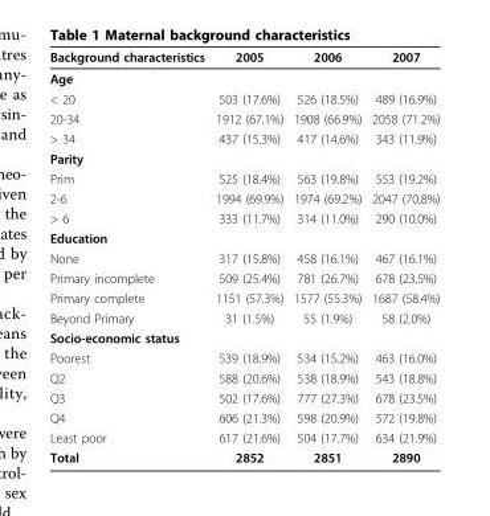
<table><thead><tr><td>Background characteristics</td><td>2005</td><td>2006</td><td>2007</td></tr></thead><tbody><tr><td colspan="4">Age</td></tr><tr><td>&lt; 20</td><td>503 (17.6%)</td><td>526 (18.5%)</td><td>489 (16.9%)</td></tr><tr><td>20-34</td><td>1912 (67.1%)</td><td>1908 (66.9%)</td><td>2058 (71.2%)</td></tr><tr><td>&gt; 34</td><td>437 (15.3%)</td><td>417 (14.6%)</td><td>343 (11.9%)</td></tr><tr><td colspan="4">Parity</td></tr><tr><td>Prim</td><td>525 (18.4%)</td><td>563 (19.8%)</td><td>553 (19.2%)</td></tr><tr><td>2-6</td><td>1994 (69.9%)</td><td>1974 (69.2%)</td><td>2047 (70.8%)</td></tr><tr><td>&gt; 6</td><td>333 (11.7%)</td><td>314 (11.0%)</td><td>290 (10.0%)</td></tr><tr><td colspan="4">Education</td></tr><tr><td>None</td><td>317 (15.8%)</td><td>458 (16.1%)</td><td>467 (16.1%)</td></tr><tr><td>Primary incomplete</td><td>509 (25.4%)</td><td>781 (26.7%)</td><td>678 (23.5%)</td></tr><tr><td>Primary complete</td><td>1151 (57.3%)</td><td>1577 (55.3%)</td><td>1687 (58.4%)</td></tr><tr><td>Beyond Primary</td><td>31 (1.5%)</td><td>55 (1.9%)</td><td>58 (2.0%)</td></tr><tr><td colspan="4">Socio-economic status</td></tr><tr><td>Poorest</td><td>539 (18.9%)</td><td>534 (15.2%)</td><td>463 (16.0%)</td></tr><tr><td>Q2</td><td>588 (20.6%)</td><td>538 (18.9%)</td><td>543 (18.8%)</td></tr><tr><td>Q3</td><td>502 (17.6%)</td><td>777 (27.3%)</td><td>678 (23.5%)</td></tr><tr><td>Q4</td><td>606 (21.3%)</td><td>598 (20.9%)</td><td>572 (19.8%)</td></tr><tr><td>Least poor</td><td>617 (21.6%)</td><td>504 (17.7%)</td><td>634 (21.9%)</td></tr><tr><td>Total</td><td>2852</td><td>2851</td><td>2890</td></tr></tbody></table>